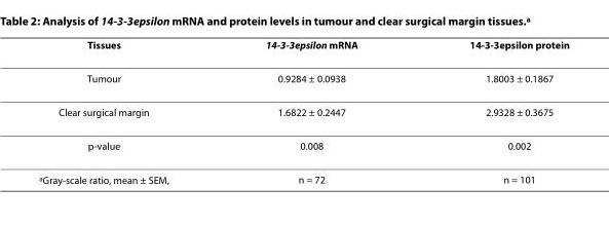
<table><thead><tr><td>Tissues</td><td>14-3-3epsilon mRNA</td><td>14-3-3epsilon protein</td></tr></thead><tbody><tr><td>Tumour</td><td>0.9284 ± 0.0938</td><td>1.8003 ± 0.1867</td></tr><tr><td>Clear surgical margin</td><td>1.6822 ± 0.2447</td><td>2.9328 ± 0.3675</td></tr><tr><td>p-value</td><td>0.008</td><td>0.002</td></tr><tr><td><sup>a</sup>Gray-scale ratio, mean ± SEM,</td><td>n = 72</td><td>n = 101</td></tr></tbody></table>